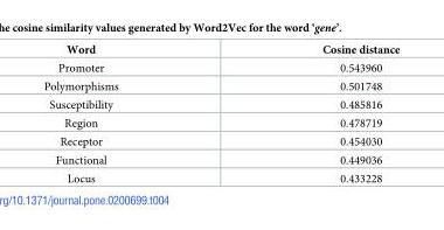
<table><thead><tr><td>Word</td><td>Cosine distance</td></tr></thead><tbody><tr><td>Promoter</td><td>0.543960</td></tr><tr><td>Polymorphisms</td><td>0.501748</td></tr><tr><td>Susceptibility</td><td>0.485816</td></tr><tr><td>Region</td><td>0.478719</td></tr><tr><td>Receptor</td><td>0.454030</td></tr><tr><td>Functional</td><td>0.449036</td></tr><tr><td>Locus</td><td>0.433228</td></tr></tbody></table>